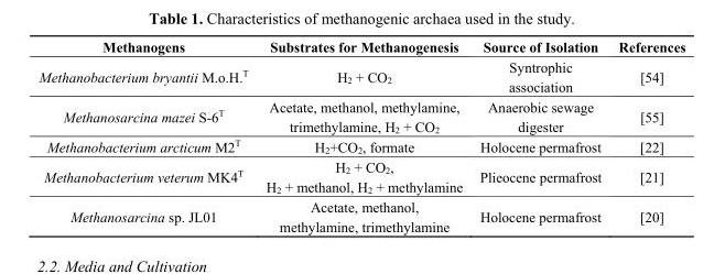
<table><thead><tr><td>Methanogens</td><td>Substrates for Methanogenesis</td><td>Source of Isolation</td><td>References</td></tr></thead><tbody><tr><td>Methanobacterium bryantii M.o.H.<sup>T</sup></td><td>H<sub>2</sub> + CO<sub>2</sub></td><td>Syntrophic association</td><td>[54]</td></tr><tr><td>Methanosarcina mazei S-6<sup>T</sup></td><td>Acetate, methanol, methylamine, trimethylamine, H<sub>2</sub> + CO<sub>2</sub></td><td>Anaerobic sewage digester</td><td>[55]</td></tr><tr><td>Methanobacterium arcticum M2<sup>T</sup></td><td>H<sub>2</sub>+CO<sub>2</sub>, formate</td><td>Holocene permafrost</td><td>[22]</td></tr><tr><td>Methanobacterium veterum MK4<sup>T</sup></td><td>H<sub>2</sub> + CO<sub>2</sub>, H<sub>2</sub> + methanol, H<sub>2</sub> + methylamine</td><td>Plieocene permafrost</td><td>[21]</td></tr><tr><td>Methanosarcina sp. JL01</td><td>Acetate, methanol, methylamine, trimethylamine</td><td>Holocene permafrost</td><td>[20]</td></tr></tbody></table>